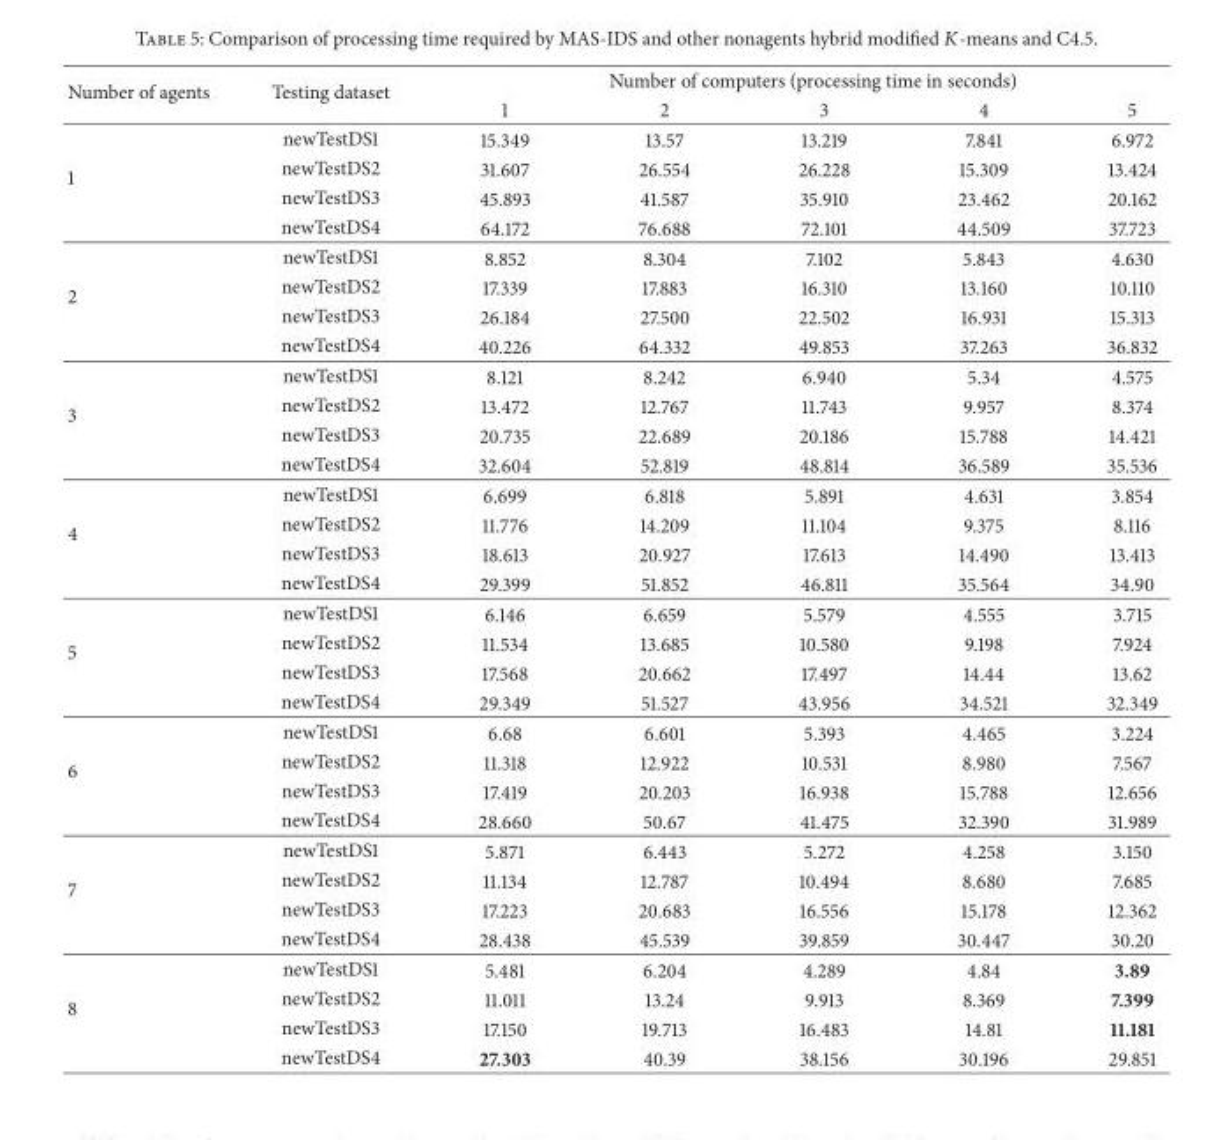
<table><thead><tr><td rowspan="2">Number of agents</td><td rowspan="2">Testing dataset</td><td colspan="5">Number of computers (processing time in seconds)</td></tr><tr><td>1</td><td>2</td><td>3</td><td>4</td><td>5</td></tr></thead><tbody><tr><td rowspan="4">1</td><td>newTestDS1</td><td>15.349</td><td>13.57</td><td>13.219</td><td>7.841</td><td>6.972</td></tr><tr><td>newTestDS2</td><td>31.607</td><td>26.554</td><td>26.228</td><td>15.309</td><td>13.424</td></tr><tr><td>newTestDS3</td><td>45.893</td><td>41.587</td><td>35.910</td><td>23.462</td><td>20.162</td></tr><tr><td>newTestDS4</td><td>64.172</td><td>76.688</td><td>72.101</td><td>44.509</td><td>37.723</td></tr><tr><td rowspan="4">2</td><td>newTestDS1</td><td>8.852</td><td>8.304</td><td>7.102</td><td>5.843</td><td>4.630</td></tr><tr><td>newTestDS2</td><td>17.339</td><td>17.883</td><td>16.310</td><td>13.160</td><td>10.110</td></tr><tr><td>newTestDS3</td><td>26.184</td><td>27.500</td><td>22.502</td><td>16.931</td><td>15.313</td></tr><tr><td>newTestDS4</td><td>40.226</td><td>64.332</td><td>49.853</td><td>37.263</td><td>36.832</td></tr><tr><td rowspan="4">3</td><td>newTestDS1</td><td>8.121</td><td>8.242</td><td>6.940</td><td>5.34</td><td>4.575</td></tr><tr><td>newTestDS2</td><td>13.472</td><td>12.767</td><td>11.743</td><td>9.957</td><td>8.374</td></tr><tr><td>newTestDS3</td><td>20.735</td><td>22.689</td><td>20.186</td><td>15.788</td><td>14.421</td></tr><tr><td>newTestDS4</td><td>32.604</td><td>52.819</td><td>48.814</td><td>36.589</td><td>35.536</td></tr><tr><td rowspan="4">4</td><td>newTestDS1</td><td>6.699</td><td>6.818</td><td>5.891</td><td>4.631</td><td>3.854</td></tr><tr><td>newTestDS2</td><td>11.776</td><td>14.209</td><td>11.104</td><td>9.375</td><td>8.116</td></tr><tr><td>newTestDS3</td><td>18.613</td><td>20.927</td><td>17.613</td><td>14.490</td><td>13.413</td></tr><tr><td>newTestDS4</td><td>29.399</td><td>51.852</td><td>46.811</td><td>35.564</td><td>34.90</td></tr><tr><td rowspan="4">5</td><td>newTestDS1</td><td>6.146</td><td>6.659</td><td>5.579</td><td>4.555</td><td>3.715</td></tr><tr><td>newTestDS2</td><td>11.534</td><td>13.685</td><td>10.580</td><td>9.198</td><td>7.924</td></tr><tr><td>newTestDS3</td><td>17.568</td><td>20.662</td><td>17.497</td><td>14.44</td><td>13.62</td></tr><tr><td>newTestDS4</td><td>29.349</td><td>51.527</td><td>43.956</td><td>34.521</td><td>32.349</td></tr><tr><td rowspan="4">6</td><td>newTestDS1</td><td>6.68</td><td>6.601</td><td>5.393</td><td>4.465</td><td>3.224</td></tr><tr><td>newTestDS2</td><td>11.318</td><td>12.922</td><td>10.531</td><td>8.980</td><td>7.567</td></tr><tr><td>newTestDS3</td><td>17.419</td><td>20.203</td><td>16.938</td><td>15.788</td><td>12.656</td></tr><tr><td>newTestDS4</td><td>28.660</td><td>50.67</td><td>41.475</td><td>32.390</td><td>31.989</td></tr><tr><td rowspan="4">7</td><td>newTestDS1</td><td>5.871</td><td>6.443</td><td>5.272</td><td>4.258</td><td>3.150</td></tr><tr><td>newTestDS2</td><td>11.134</td><td>12.787</td><td>10.494</td><td>8.680</td><td>7.685</td></tr><tr><td>newTestDS3</td><td>17.223</td><td>20.683</td><td>16.556</td><td>15.178</td><td>12.362</td></tr><tr><td>newTestDS4</td><td>28.438</td><td>45.539</td><td>39.859</td><td>30.447</td><td>30.20</td></tr><tr><td rowspan="4">8</td><td>newTestDS1</td><td>5.481</td><td>6.204</td><td>4.289</td><td>4.84</td><td>3.89</td></tr><tr><td>newTestDS2</td><td>11.011</td><td>13.24</td><td>9.913</td><td>8.369</td><td>7.399</td></tr><tr><td>newTestDS3</td><td>17.150</td><td>19.713</td><td>16.483</td><td>14.81</td><td>11.181</td></tr><tr><td>newTestDS4</td><td>27.303</td><td>40.39</td><td>38.156</td><td>30.196</td><td>29.851</td></tr></tbody></table>